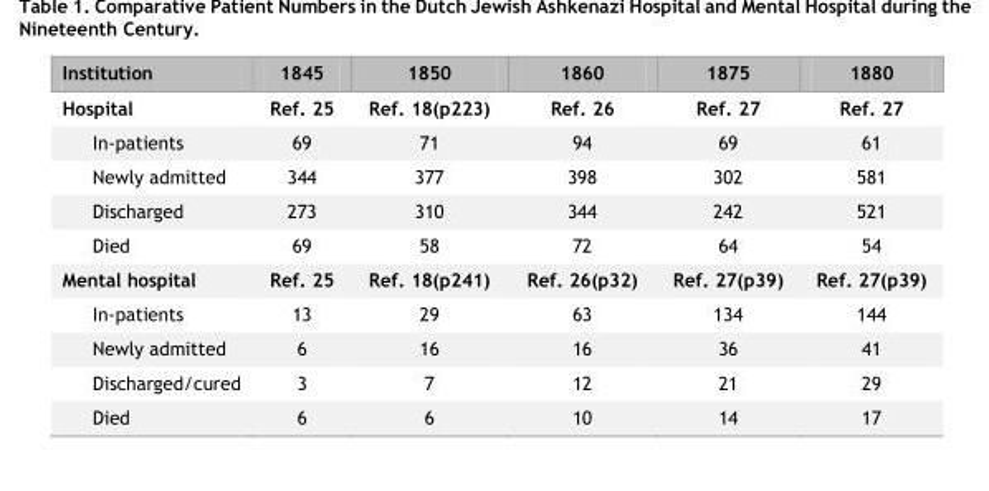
<table><thead><tr><td>Institution</td><td>1845</td><td>1850</td><td>1860</td><td>1875</td><td>1880</td></tr></thead><tbody><tr><td>Hospital</td><td>Ref. 25</td><td>Ref. 18(p223)</td><td>Ref. 26</td><td>Ref. 27</td><td>Ref. 27</td></tr><tr><td>In-patients</td><td>69</td><td>71</td><td>94</td><td>69</td><td>61</td></tr><tr><td>Newly admitted</td><td>344</td><td>377</td><td>398</td><td>302</td><td>581</td></tr><tr><td>Discharged</td><td>273</td><td>310</td><td>344</td><td>242</td><td>521</td></tr><tr><td>Died</td><td>69</td><td>58</td><td>72</td><td>64</td><td>54</td></tr><tr><td>Mental hospital</td><td>Ref. 25</td><td>Ref. 18(p241)</td><td>Ref. 26(p32)</td><td>Ref. 27(p39)</td><td>Ref. 27(p39)</td></tr><tr><td>In-patients</td><td>13</td><td>29</td><td>63</td><td>134</td><td>144</td></tr><tr><td>Newly admitted</td><td>6</td><td>16</td><td>16</td><td>36</td><td>41</td></tr><tr><td>Discharged/cured</td><td>3</td><td>7</td><td>12</td><td>21</td><td>29</td></tr><tr><td>Died</td><td>6</td><td>6</td><td>10</td><td>14</td><td>17</td></tr></tbody></table>